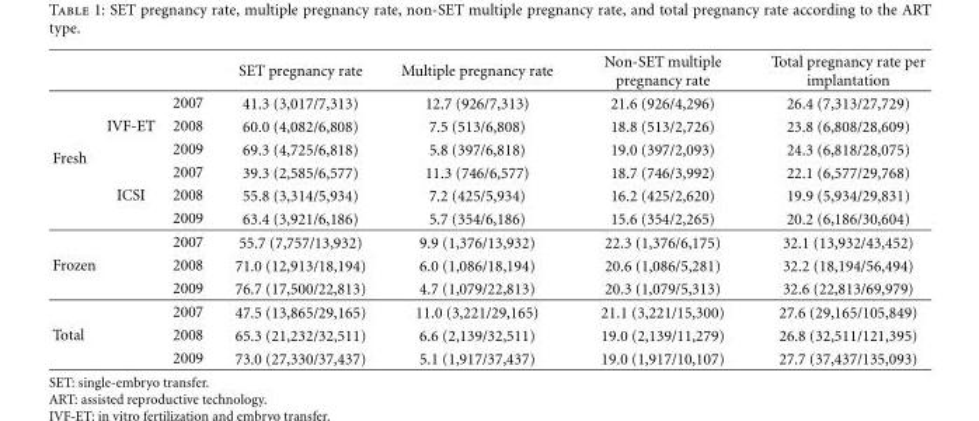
<table><thead><tr><td></td><td></td><td></td><td>SET pregnancy rate</td><td>Multiple pregnancy rate</td><td>Non-SET multiple pregnancy rate</td><td>Total pregnancy rate per implantation</td></tr></thead><tbody><tr><td></td><td></td><td>2007</td><td>41.3 (3,017/7,313)</td><td>12.7 (926/7,313)</td><td>21.6 (926/4,296)</td><td>26.4 (7,313/27,729)</td></tr><tr><td></td><td>IVF-ET</td><td>2008</td><td>60.0 (4,082/6,808)</td><td>7.5 (513/6,808)</td><td>18.8 (513/2,726)</td><td>23.8 (6,808/28,609)</td></tr><tr><td rowspan="5">Fresh</td><td></td><td>2009</td><td>69.3 (4,725/6,818)</td><td>5.8 (397/6,818)</td><td>19.0 (397/2,093)</td><td>24.3 (6,818/28,075)</td></tr><tr><td></td><td>2007</td><td>39.3 (2,585/6,577)</td><td>11.3 (746/6,577)</td><td>18.7 (746/3,992)</td><td>22.1 (6,577/29,768)</td></tr><tr><td>ICSI</td><td>2008</td><td>55.8 (3,314/5,934)</td><td>7.2 (425/5,934)</td><td>16.2 (425/2,620)</td><td>19.9 (5,934/29,831)</td></tr><tr><td></td><td>2009</td><td>63.4 (3,921/6,186)</td><td>5.7 (354/6,186)</td><td>15.6 (354/2,265)</td><td>20.2 (6,186/30,604)</td></tr><tr><td></td><td>2007</td><td>55.7 (7,757/13,932)</td><td>9.9 (1,376/13,932)</td><td>22.3 (1,376/6,175)</td><td>32.1 (13,932/43,452)</td></tr><tr><td rowspan="3">Frozen</td><td></td><td>2008</td><td>71.0 (12,913/18,194)</td><td>6.0 (1,086/18,194)</td><td>20.6 (1,086/5,281)</td><td>32.2 (18,194/56,494)</td></tr><tr><td></td><td>2009</td><td>76.7 (17,500/22,813)</td><td>4.7 (1,079/22,813)</td><td>20.3 (1,079/5,313)</td><td>32.6 (22,813/69,979)</td></tr><tr><td></td><td>2007</td><td>47.5 (13,865/29,165)</td><td>11.0 (3,221/29,165)</td><td>21.1 (3,221/15,300)</td><td>27.6 (29,165/105,849)</td></tr><tr><td rowspan="2">Total</td><td></td><td>2008</td><td>65.3 (21,232/32,511)</td><td>6.6 (2,139/32,511)</td><td>19.0 (2,139/11,279)</td><td>26.8 (32,511/121,395)</td></tr><tr><td></td><td>2009</td><td>73.0 (27,330/37,437)</td><td>5.1 (1,917/37,437)</td><td>19.0 (1,917/10,107)</td><td>27.7 (37,437/135,093)</td></tr></tbody></table>